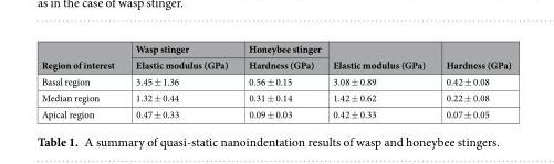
<table><thead><tr><td rowspan="2">Region of interest</td><td rowspan="2">Wasp stinger Elastic modulus (GPa)</td><td rowspan="2">Honeybee stinger Hardness (GPa)</td><td rowspan="2">Elastic modulus (GPa)</td><td rowspan="2">Hardness (GPa)</td></tr><tr></tr></thead><tbody><tr><td>Basal region</td><td>3.45 ± 1.36</td><td>0.56 ± 0.15</td><td>3.08 ± 0.89</td><td>0.42 ± 0.08</td></tr><tr><td>Median region</td><td>1.32 ± 0.44</td><td>0.31 ± 0.14</td><td>1.42 ± 0.62</td><td>0.22 ± 0.08</td></tr><tr><td>Apical region</td><td>0.47 ± 0.33</td><td>0.09 ± 0.03</td><td>0.42 ± 0.33</td><td>0.07 ± 0.05</td></tr></tbody></table>